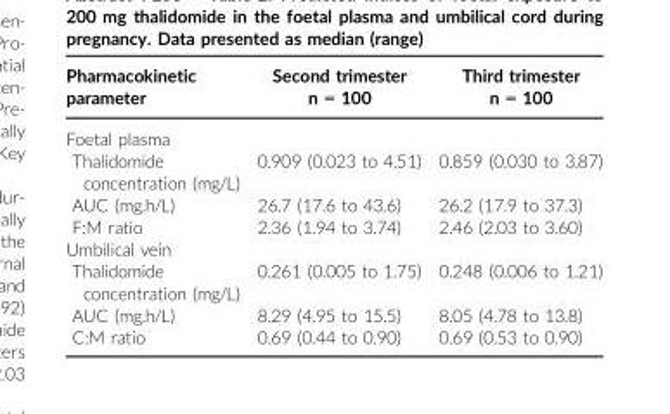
<table><thead><tr><td>Pharmacokinetic parameter</td><td>Second trimester n = 100</td><td>Third trimester n = 100</td></tr></thead><tbody><tr><td colspan="3">Foetal plasma</td></tr><tr><td>Thalidomide concentration (mg/L)</td><td>0.909 (0.023 to 4.51)</td><td>0.859 (0.030 to 3.87)</td></tr><tr><td>AUC (mg.h/L)</td><td>26.7 (17.6 to 43.6)</td><td>26.2 (17.9 to 37.3)</td></tr><tr><td>F:M ratio</td><td>2.36 (1.94 to 3.74)</td><td>2.46 (2.03 to 3.60)</td></tr><tr><td colspan="3">Umbilical vein</td></tr><tr><td>Thalidomide concentration (mg/L)</td><td>0.261 (0.005 to 1.75)</td><td>0.248 (0.006 to 1.21)</td></tr><tr><td>AUC (mg.h/L)</td><td>8.29 (4.95 to 15.5)</td><td>8.05 (4.78 to 13.8)</td></tr><tr><td>C:M ratio</td><td>0.69 (0.44 to 0.90)</td><td>0.69 (0.53 to 0.90)</td></tr></tbody></table>